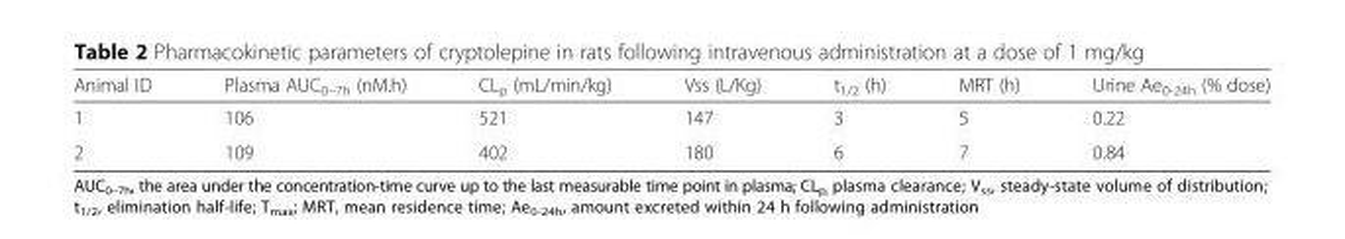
<table><thead><tr><td>Animal ID</td><td>Plasma AUC<sub>0–7h</sub> (nM.h)</td><td>CL<sub>p</sub> (mL/min/kg)</td><td>Vss (L/Kg)</td><td>t<sub>1/2</sub> (h)</td><td>MRT (h)</td><td>Urine Ae<sub>0-24h</sub> (% dose)</td></tr></thead><tbody><tr><td>1</td><td>106</td><td>521</td><td>147</td><td>3</td><td>5</td><td>0.22</td></tr><tr><td>2</td><td>109</td><td>402</td><td>180</td><td>6</td><td>7</td><td>0.84</td></tr></tbody></table>